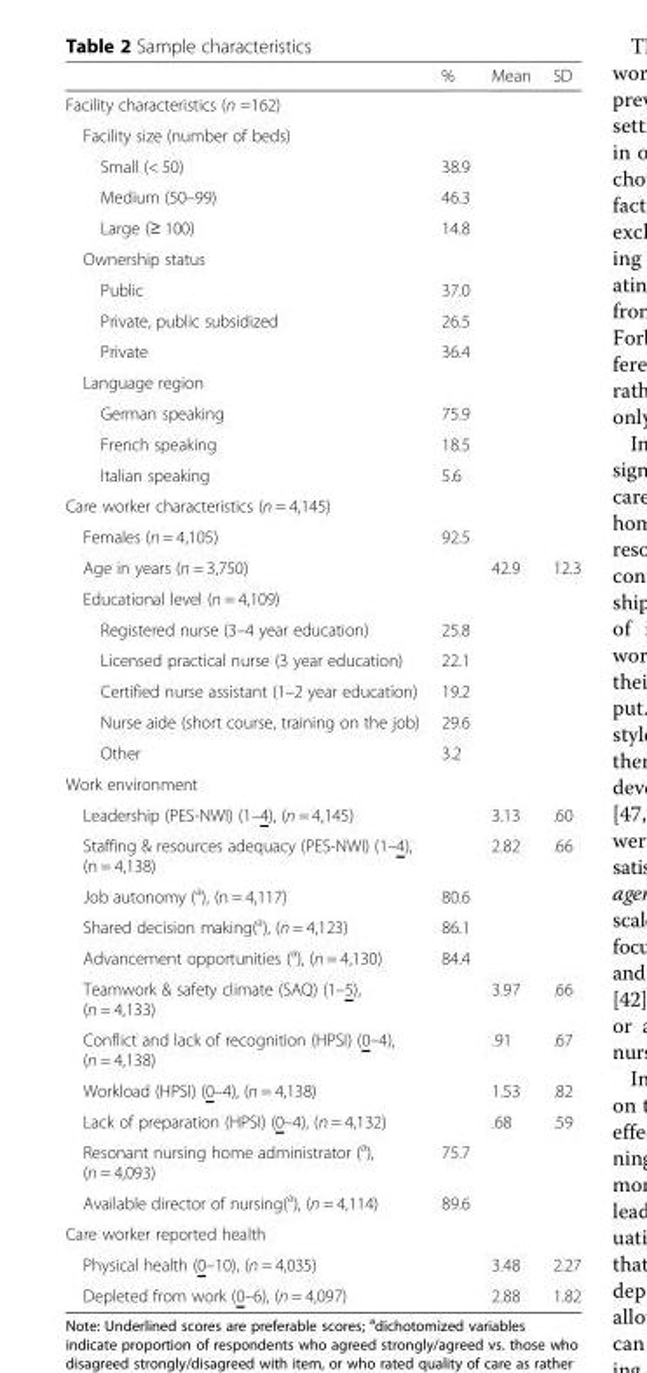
<table><thead><tr><td></td><td>%</td><td>Mean</td><td>SD</td></tr></thead><tbody><tr><td colspan="4">Facility characteristics (n =162)</td></tr><tr><td colspan="4">Facility size (number of beds)</td></tr><tr><td>Small (&lt; 50)</td><td>38.9</td><td></td><td></td></tr><tr><td>Medium (50–99)</td><td>46.3</td><td></td><td></td></tr><tr><td>Large (≥ 100)</td><td>14.8</td><td></td><td></td></tr><tr><td colspan="4">Ownership status</td></tr><tr><td>Public</td><td>37.0</td><td></td><td></td></tr><tr><td>Private, public subsidized</td><td>26.5</td><td></td><td></td></tr><tr><td>Private</td><td>36.4</td><td></td><td></td></tr><tr><td colspan="4">Language region</td></tr><tr><td>German speaking</td><td>75.9</td><td></td><td></td></tr><tr><td>French speaking</td><td>18.5</td><td></td><td></td></tr><tr><td>Italian speaking</td><td>5.6</td><td></td><td></td></tr><tr><td colspan="4">Care worker characteristics (n = 4,145)</td></tr><tr><td>Females (n = 4,105)</td><td>92.5</td><td></td><td></td></tr><tr><td>Age in years (n = 3,750)</td><td></td><td>42.9</td><td>12.3</td></tr><tr><td colspan="4">Educational level (n = 4,109)</td></tr><tr><td>Registered nurse (3–4 year education)</td><td>25.8</td><td></td><td></td></tr><tr><td>Licensed practical nurse (3 year education)</td><td>22.1</td><td></td><td></td></tr><tr><td>Certified nurse assistant (1–2 year education)</td><td>19.2</td><td></td><td></td></tr><tr><td>Nurse aide (short course, training on the job)</td><td>29.6</td><td></td><td></td></tr><tr><td>Other</td><td>3.2</td><td></td><td></td></tr><tr><td colspan="4">Work environment</td></tr><tr><td>Leadership (PES-NWI) (1–4), (n = 4,145)</td><td></td><td>3.13</td><td>.60</td></tr><tr><td>Staffing &amp; resources adequacy (PES-NWI) (1–4), (n = 4,138)</td><td></td><td>2.82</td><td>.66</td></tr><tr><td>Job autonomy (<sup>a</sup>), (n = 4,117)</td><td>80.6</td><td></td><td></td></tr><tr><td>Shared decision making(<sup>a</sup>), (n = 4,123)</td><td>86.1</td><td></td><td></td></tr><tr><td>Advancement opportunities (<sup>a</sup>), (n = 4,130)</td><td>84.4</td><td></td><td></td></tr><tr><td>Teamwork &amp; safety climate (SAQ) (1–5), (n = 4,133)</td><td></td><td>3.97</td><td>.66</td></tr><tr><td>Conflict and lack of recognition (HPSI) (0–4), (n = 4,138)</td><td></td><td>.91</td><td>.67</td></tr><tr><td>Workload (HPSI) (0–4), (n = 4,138)</td><td></td><td>1.53</td><td>.82</td></tr><tr><td>Lack of preparation (HPSI) (0–4), (n = 4,132)</td><td></td><td>.68</td><td>.59</td></tr><tr><td>Resonant nursing home administrator (<sup>a</sup>), (n = 4,093)</td><td>75.7</td><td></td><td></td></tr><tr><td>Available director of nursing(<sup>a</sup>), (n = 4,114)</td><td>89.6</td><td></td><td></td></tr><tr><td colspan="4">Care worker reported health</td></tr><tr><td>Physical health (0–10), (n = 4,035)</td><td></td><td>3.48</td><td>2.27</td></tr><tr><td>Depleted from work (0–6), (n = 4,097)</td><td></td><td>2.88</td><td>1.82</td></tr></tbody></table>